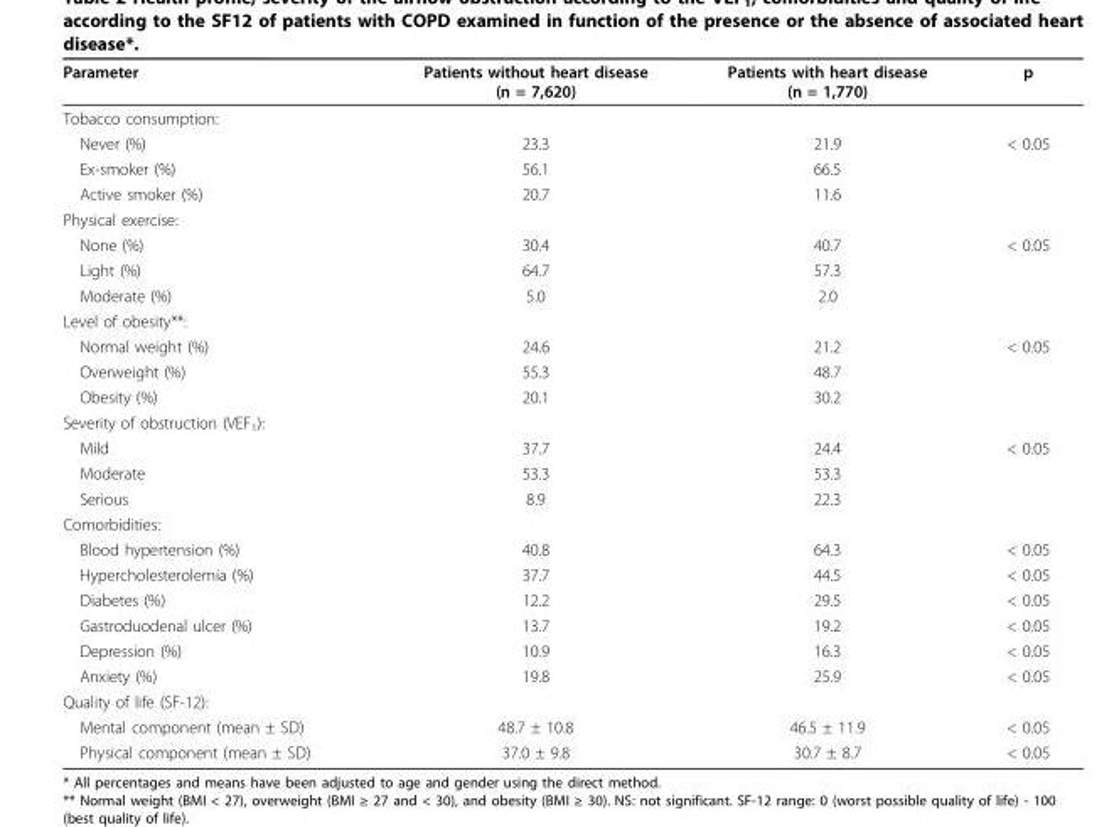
<table><thead><tr><td>Parameter</td><td>Patients without heart disease (n = 7,620)</td><td>Patients with heart disease (n = 1,770)</td><td>p</td></tr></thead><tbody><tr><td colspan="4">Tobacco consumption:</td></tr><tr><td>Never (%)</td><td>23.3</td><td>21.9</td><td>&lt; 0.05</td></tr><tr><td>Ex-smoker (%)</td><td>56.1</td><td>66.5</td><td></td></tr><tr><td>Active smoker (%)</td><td>20.7</td><td>11.6</td><td></td></tr><tr><td colspan="4">Physical exercise:</td></tr><tr><td>None (%)</td><td>30.4</td><td>40.7</td><td>&lt; 0.05</td></tr><tr><td>Light (%)</td><td>64.7</td><td>57.3</td><td></td></tr><tr><td>Moderate (%)</td><td>5.0</td><td>2.0</td><td></td></tr><tr><td colspan="4">Level of obesity**:</td></tr><tr><td>Normal weight (%)</td><td>24.6</td><td>21.2</td><td>&lt; 0.05</td></tr><tr><td>Overweight (%)</td><td>55.3</td><td>48.7</td><td></td></tr><tr><td>Obesity (%)</td><td>20.1</td><td>30.2</td><td></td></tr><tr><td colspan="4">Severity of obstruction (VEF<sub>1</sub>):</td></tr><tr><td>Mild</td><td>37.7</td><td>24.4</td><td>&lt; 0.05</td></tr><tr><td>Moderate</td><td>53.3</td><td>53.3</td><td></td></tr><tr><td>Serious</td><td>8.9</td><td>22.3</td><td></td></tr><tr><td colspan="4">Comorbidities:</td></tr><tr><td>Blood hypertension (%)</td><td>40.8</td><td>64.3</td><td>&lt; 0.05</td></tr><tr><td>Hypercholesterolemia (%)</td><td>37.7</td><td>44.5</td><td>&lt; 0.05</td></tr><tr><td>Diabetes (%)</td><td>12.2</td><td>29.5</td><td>&lt; 0.05</td></tr><tr><td>Gastroduodenal ulcer (%)</td><td>13.7</td><td>19.2</td><td>&lt; 0.05</td></tr><tr><td>Depression (%)</td><td>10.9</td><td>16.3</td><td>&lt; 0.05</td></tr><tr><td>Anxiety (%)</td><td>19.8</td><td>25.9</td><td>&lt; 0.05</td></tr><tr><td colspan="4">Quality of life (SF-12):</td></tr><tr><td>Mental component (mean ± SD)</td><td>48.7 ± 10.8</td><td>46.5 ± 11.9</td><td>&lt; 0.05</td></tr><tr><td>Physical component (mean ± SD)</td><td>37.0 ± 9.8</td><td>30.7 ± 8.7</td><td>&lt; 0.05</td></tr></tbody></table>